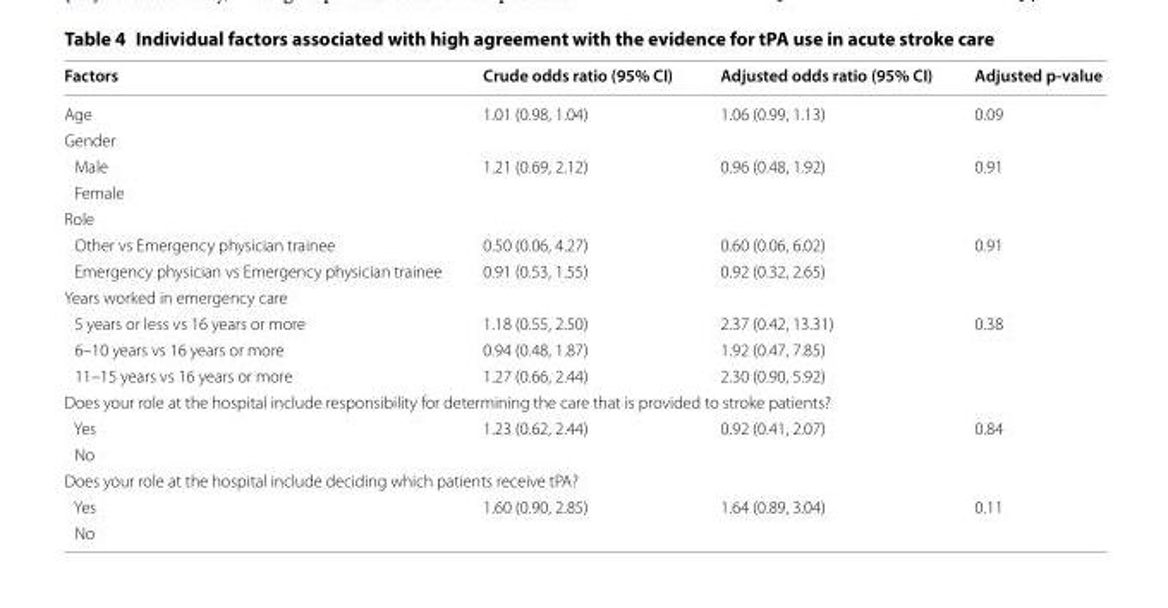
<table><thead><tr><td>Factors</td><td>Crude odds ratio (95% CI)</td><td>Adjusted odds ratio (95% CI)</td><td>Adjusted p-value</td></tr></thead><tbody><tr><td>Age</td><td>1.01 (0.98, 1.04)</td><td>1.06 (0.99, 1.13)</td><td>0.09</td></tr><tr><td colspan="4">Gender</td></tr><tr><td>Male</td><td>1.21 (0.69, 2.12)</td><td>0.96 (0.48, 1.92)</td><td>0.91</td></tr><tr><td colspan="4">Female</td></tr><tr><td colspan="4">Role</td></tr><tr><td>Other vs Emergency physician trainee</td><td>0.50 (0.06, 4.27)</td><td>0.60 (0.06, 6.02)</td><td>0.91</td></tr><tr><td>Emergency physician vs Emergency physician trainee</td><td>0.91 (0.53, 1.55)</td><td>0.92 (0.32, 2.65)</td><td></td></tr><tr><td colspan="4">Years worked in emergency care</td></tr><tr><td>5 years or less vs 16 years or more</td><td>1.18 (0.55, 2.50)</td><td>2.37 (0.42, 13.31)</td><td>0.38</td></tr><tr><td>6–10 years vs 16 years or more</td><td>0.94 (0.48, 1.87)</td><td>1.92 (0.47, 7.85)</td><td></td></tr><tr><td>11–15 years vs 16 years or more</td><td>1.27 (0.66, 2.44)</td><td>2.30 (0.90, 5.92)</td><td></td></tr><tr><td colspan="4">Does your role at the hospital include responsibility for determining the care that is provided to stroke patients?</td></tr><tr><td>Yes</td><td>1.23 (0.62, 2.44)</td><td>0.92 (0.41, 2.07)</td><td>0.84</td></tr><tr><td colspan="4">No</td></tr><tr><td colspan="4">Does your role at the hospital include deciding which patients receive tPA?</td></tr><tr><td>Yes</td><td>1.60 (0.90, 2.85)</td><td>1.64 (0.89, 3.04)</td><td>0.11</td></tr><tr><td>No</td><td></td><td></td><td></td></tr></tbody></table>